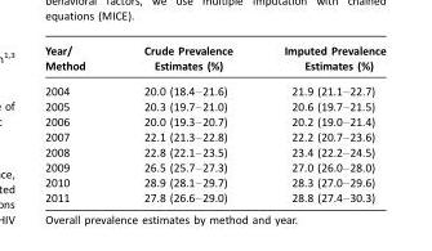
<table><thead><tr><td>Year/ Method</td><td>Crude Prevalence Estimates (%)</td><td>Imputed Prevalence Estimates (%)</td></tr></thead><tbody><tr><td>2004</td><td>20.0 (18.4–21.6)</td><td>21.9 (21.1–22.7)</td></tr><tr><td>2005</td><td>20.3 (19.7–21.0)</td><td>20.6 (19.7–21.5)</td></tr><tr><td>2006</td><td>20.0 (19.3–20.7)</td><td>20.2 (19.0–21.4)</td></tr><tr><td>2007</td><td>22.1 (21.3–22.8)</td><td>22.2 (20.7–23.6)</td></tr><tr><td>2008</td><td>22.8 (22.1–23.5)</td><td>23.4 (22.2–24.5)</td></tr><tr><td>2009</td><td>26.5 (25.7–27.3)</td><td>27.0 (26.0–28.0)</td></tr><tr><td>2010</td><td>28.9 (28.1–29.7)</td><td>28.3 (27.0–29.6)</td></tr><tr><td>2011</td><td>27.8 (26.6–29.0)</td><td>28.8 (27.4–30.3)</td></tr></tbody></table>